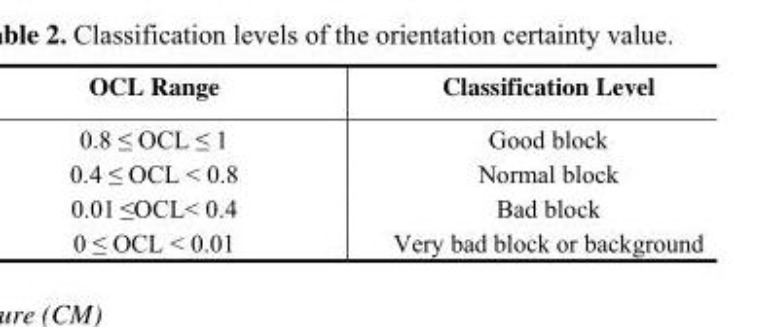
<table><thead><tr><td>OCL Range</td><td>Classification Level</td></tr></thead><tbody><tr><td>0.8 ≤ OCL ≤ 1</td><td>Good block</td></tr><tr><td>0.4 ≤ OCL &lt; 0.8</td><td>Normal block</td></tr><tr><td>0.01 ≤OCL&lt; 0.4</td><td>Bad block</td></tr><tr><td>0 ≤ OCL &lt; 0.01</td><td>Very bad block or background</td></tr></tbody></table>